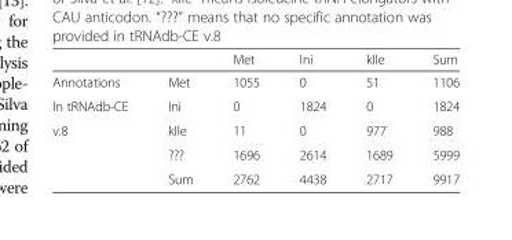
<table><thead><tr><td></td><td></td><td>Met</td><td>Ini</td><td>kIle</td><td>Sum</td></tr></thead><tbody><tr><td>Annotations</td><td>Met</td><td>1055</td><td>0</td><td>51</td><td>1106</td></tr><tr><td>In tRNAdb-CE</td><td>Ini</td><td>0</td><td>1824</td><td>0</td><td>1824</td></tr><tr><td rowspan="3">v.8</td><td>kIle</td><td>11</td><td>0</td><td>977</td><td>988</td></tr><tr><td>???</td><td>1696</td><td>2614</td><td>1689</td><td>5999</td></tr><tr><td>Sum</td><td>2762</td><td>4438</td><td>2717</td><td>9917</td></tr></tbody></table>